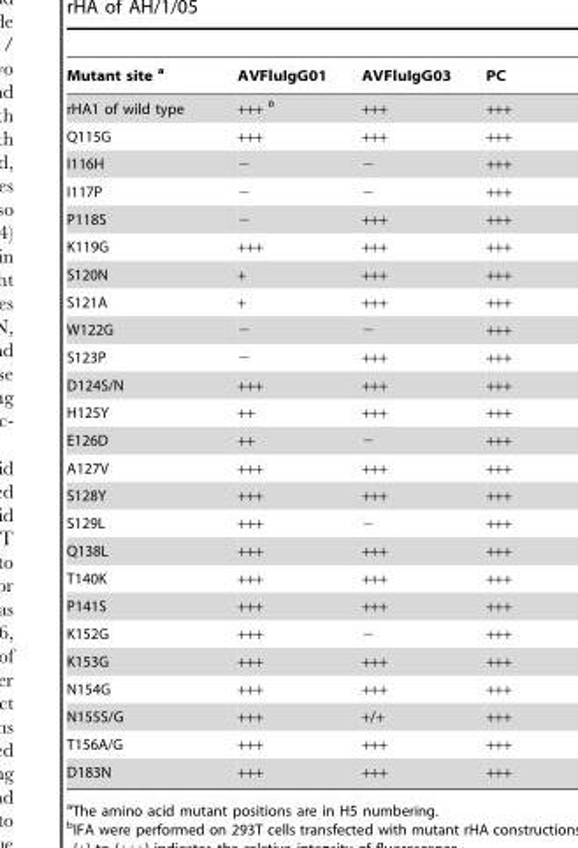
<table><thead><tr><td>Mutant site a</td><td>AVFluIgG01</td><td>AVFluIgG03</td><td>PC</td></tr></thead><tbody><tr><td>rHA1 of wild type</td><td>+++ b</td><td>+++</td><td>+++</td></tr><tr><td>Q115G</td><td>+++</td><td>+++</td><td>+++</td></tr><tr><td>I116H</td><td>−</td><td>−</td><td>+++</td></tr><tr><td>I117P</td><td>−</td><td>−</td><td>+++</td></tr><tr><td>P118S</td><td>−</td><td>+++</td><td>+++</td></tr><tr><td>K119G</td><td>+++</td><td>+++</td><td>+++</td></tr><tr><td>S120N</td><td>+</td><td>+++</td><td>+++</td></tr><tr><td>S121A</td><td>+</td><td>+++</td><td>+++</td></tr><tr><td>W122G</td><td>−</td><td>−</td><td>+++</td></tr><tr><td>S123P</td><td>−</td><td>+++</td><td>+++</td></tr><tr><td>D124S/N</td><td>+++</td><td>+++</td><td>+++</td></tr><tr><td>H125Y</td><td>++</td><td>+++</td><td>+++</td></tr><tr><td>E126D</td><td>++</td><td>−</td><td>+++</td></tr><tr><td>A127V</td><td>+++</td><td>+++</td><td>+++</td></tr><tr><td>S128Y</td><td>+++</td><td>+++</td><td>+++</td></tr><tr><td>S129L</td><td>+++</td><td>−</td><td>+++</td></tr><tr><td>Q138L</td><td>+++</td><td>+++</td><td>+++</td></tr><tr><td>T140K</td><td>+++</td><td>+++</td><td>+++</td></tr><tr><td>P141S</td><td>+++</td><td>+++</td><td>+++</td></tr><tr><td>K152G</td><td>+++</td><td>−</td><td>+++</td></tr><tr><td>K153G</td><td>+++</td><td>+++</td><td>+++</td></tr><tr><td>N154G</td><td>+++</td><td>+++</td><td>+++</td></tr><tr><td>N155S/G</td><td>+++</td><td>+/+</td><td>+++</td></tr><tr><td>T156A/G</td><td>+++</td><td>+++</td><td>+++</td></tr><tr><td>D183N</td><td>+++</td><td>+++</td><td>+++</td></tr></tbody></table>